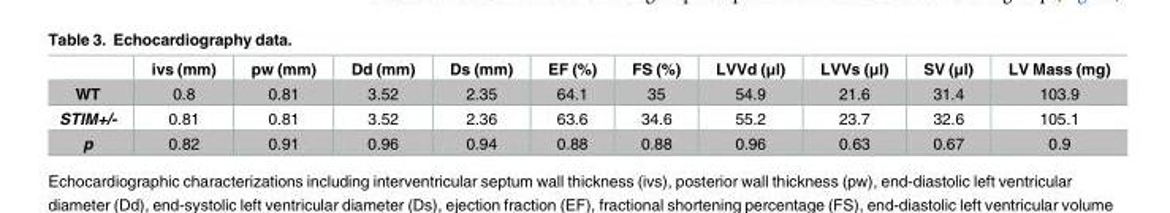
<table><thead><tr><td></td><td>ivs (mm)</td><td>pw (mm)</td><td>Dd (mm)</td><td>Ds (mm)</td><td>EF (%)</td><td>FS (%)</td><td>LVVd (μl)</td><td>LVVs (μl)</td><td>SV (μl)</td><td>LV Mass (mg)</td></tr></thead><tbody><tr><td>WT</td><td>0.8</td><td>0.81</td><td>3.52</td><td>2.35</td><td>64.1</td><td>35</td><td>54.9</td><td>21.6</td><td>31.4</td><td>103.9</td></tr><tr><td>STIM+/-</td><td>0.81</td><td>0.81</td><td>3.52</td><td>2.36</td><td>63.6</td><td>34.6</td><td>55.2</td><td>23.7</td><td>32.6</td><td>105.1</td></tr><tr><td>p</td><td>0.82</td><td>0.91</td><td>0.96</td><td>0.94</td><td>0.88</td><td>0.88</td><td>0.96</td><td>0.63</td><td>0.67</td><td>0.9</td></tr></tbody></table>